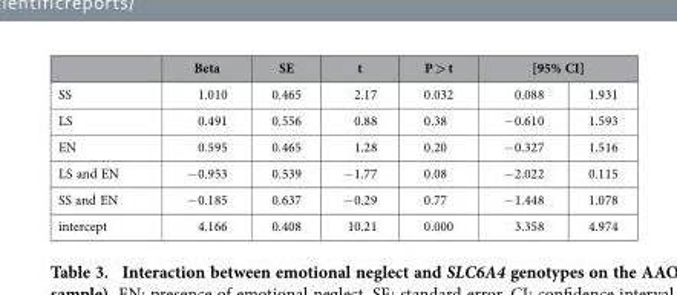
<table><thead><tr><td rowspan="2">SS</td><td rowspan="2">Beta 1.010</td><td rowspan="2">SE 0.465</td><td rowspan="2">t 2.17</td><td rowspan="2">P &gt; t 0.032</td><td colspan="2">[95% CI]</td></tr><tr><td>0.088</td><td>1.931</td></tr></thead><tbody><tr><td>LS</td><td>0.491</td><td>0.556</td><td>0.88</td><td>0.38</td><td>− 0.610</td><td>1.593</td></tr><tr><td>EN</td><td>0.595</td><td>0.465</td><td>1.28</td><td>0.20</td><td>− 0.327</td><td>1.516</td></tr><tr><td>LS and EN</td><td>− 0.953</td><td>0.539</td><td>− 1.77</td><td>0.08</td><td>− 2.022</td><td>0.115</td></tr><tr><td>SS and EN</td><td>− 0.185</td><td>0.637</td><td>− 0.29</td><td>0.77</td><td>− 1.448</td><td>1.078</td></tr><tr><td>intercept</td><td>4.166</td><td>0.408</td><td>10.21</td><td>0.000</td><td>3.358</td><td>4.974</td></tr></tbody></table>